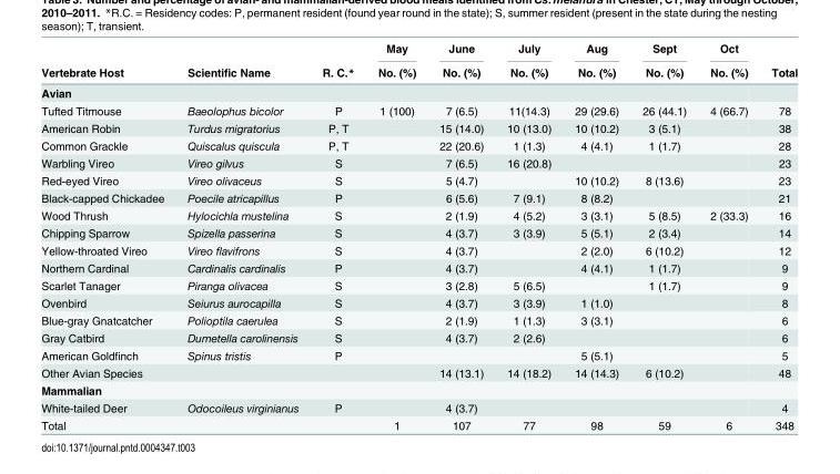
<table><thead><tr><td rowspan="2">Vertebrate Host</td><td rowspan="2">Scientific Name</td><td rowspan="2">R. C.*</td><td rowspan="2">May No. (%)</td><td rowspan="2">June No. (%)</td><td rowspan="2">July No. (%)</td><td rowspan="2">Aug No. (%)</td><td rowspan="2">Sept No. (%)</td><td rowspan="2">Oct No. (%)</td><td rowspan="2">Total</td></tr><tr></tr></thead><tbody><tr><td colspan="10">Avian</td></tr><tr><td>Tufted Titmouse</td><td>Baeolophus bicolor</td><td>P</td><td>1 (100)</td><td>7 (6.5)</td><td>11(14.3)</td><td>29 (29.6)</td><td>26 (44.1)</td><td>4 (66.7)</td><td>78</td></tr><tr><td>American Robin</td><td>Turdus migratorius</td><td>P, T</td><td></td><td>15 (14.0)</td><td>10 (13.0)</td><td>10 (10.2)</td><td>3 (5.1)</td><td></td><td>38</td></tr><tr><td>Common Grackle</td><td>Quiscalus quiscula</td><td>P, T</td><td></td><td>22 (20.6)</td><td>1 (1.3)</td><td>4 (4.1)</td><td>1 (1.7)</td><td></td><td>28</td></tr><tr><td>Warbling Vireo</td><td>Vireo gilvus</td><td>S</td><td></td><td>7 (6.5)</td><td>16 (20.8)</td><td></td><td></td><td></td><td>23</td></tr><tr><td>Red-eyed Vireo</td><td>Vireo olivaceus</td><td>S</td><td></td><td>5 (4.7)</td><td></td><td>10 (10.2)</td><td>8 (13.6)</td><td></td><td>23</td></tr><tr><td>Black-capped Chickadee</td><td>Poecile atricapillus</td><td>P</td><td></td><td>6 (5.6)</td><td>7 (9.1)</td><td>8 (8.2)</td><td></td><td></td><td>21</td></tr><tr><td>Wood Thrush</td><td>Hylocichla mustelina</td><td>S</td><td></td><td>2 (1.9)</td><td>4 (5.2)</td><td>3 (3.1)</td><td>5 (8.5)</td><td>2 (33.3)</td><td>16</td></tr><tr><td>Chipping Sparrow</td><td>Spizella passerina</td><td>S</td><td></td><td>4 (3.7)</td><td>3 (3.9)</td><td>5 (5.1)</td><td>2 (3.4)</td><td></td><td>14</td></tr><tr><td>Yellow-throated Vireo</td><td>Vireo flavifrons</td><td>S</td><td></td><td>4 (3.7)</td><td></td><td>2 (2.0)</td><td>6 (10.2)</td><td></td><td>12</td></tr><tr><td>Northern Cardinal</td><td>Cardinalis cardinalis</td><td>P</td><td></td><td>4 (3.7)</td><td></td><td>4 (4.1)</td><td>1 (1.7)</td><td></td><td>9</td></tr><tr><td>Scarlet Tanager</td><td>Piranga olivacea</td><td>S</td><td></td><td>3 (2.8)</td><td>5 (6.5)</td><td></td><td>1 (1.7)</td><td></td><td>9</td></tr><tr><td>Ovenbird</td><td>Seiurus aurocapilla</td><td>S</td><td></td><td>4 (3.7)</td><td>3 (3.9)</td><td>1 (1.0)</td><td></td><td></td><td>8</td></tr><tr><td>Blue-gray Gnatcatcher</td><td>Polioptila caerulea</td><td>S</td><td></td><td>2 (1.9)</td><td>1 (1.3)</td><td>3 (3.1)</td><td></td><td></td><td>6</td></tr><tr><td>Gray Catbird</td><td>Dumetella carolinensis</td><td>S</td><td></td><td>4 (3.7)</td><td>2 (2.6)</td><td></td><td></td><td></td><td>6</td></tr><tr><td>American Goldfinch</td><td>Spinus tristis</td><td>P</td><td></td><td></td><td></td><td>5 (5.1)</td><td></td><td></td><td>5</td></tr><tr><td>Other Avian Species</td><td></td><td></td><td></td><td>14 (13.1)</td><td>14 (18.2)</td><td>14 (14.3)</td><td>6 (10.2)</td><td></td><td>48</td></tr><tr><td colspan="10">Mammalian</td></tr><tr><td>White-tailed Deer</td><td>Odocoileus virginianus</td><td>P</td><td></td><td>4 (3.7)</td><td></td><td></td><td></td><td></td><td>4</td></tr><tr><td>Total</td><td></td><td></td><td>1</td><td>107</td><td>77</td><td>98</td><td>59</td><td>6</td><td>348</td></tr></tbody></table>